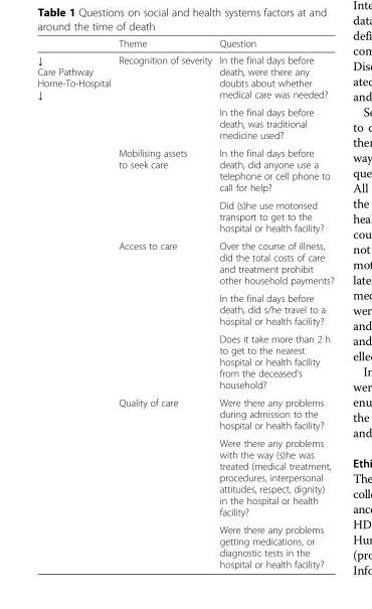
<table><thead><tr><td></td><td>Theme</td><td>Question</td></tr></thead><tbody><tr><td rowspan="10">↓ Care Pathway Home-To-Hospital ↓</td><td>Recognition of severity</td><td>In the final days before death, were there any doubts about whether medical care was needed?</td></tr><tr><td></td><td>In the final days before death, was traditional medicine used?</td></tr><tr><td>Mobilising assets to seek care</td><td>In the final days before death, did anyone use a telephone or cell phone to call for help?</td></tr><tr><td></td><td>Did (s)he use motorised transport to get to the hospital or health facility?</td></tr><tr><td>Access to care</td><td>Over the course of illness, did the total costs of care and treatment prohibit other household payments?</td></tr><tr><td></td><td>In the final days before death, did s/he travel to a hospital or health facility?</td></tr><tr><td></td><td>Does it take more than 2 h to get to the nearest hospital or health facility from the deceased&#x27;s household?</td></tr><tr><td>Quality of care</td><td>Were there any problems during admission to the hospital or health facility?</td></tr><tr><td></td><td>Were there any problems with the way (s)he was treated (medical treatment, procedures, interpersonal attitudes, respect, dignity) in the hospital or health facility?</td></tr><tr><td></td><td>Were there any problems getting medications, or diagnostic tests in the hospital or health facility?</td></tr></tbody></table>